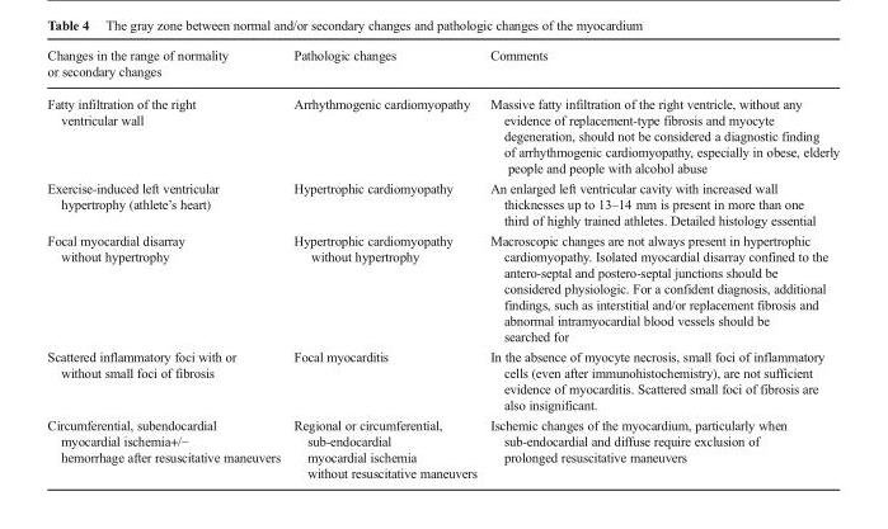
<table><thead><tr><td>Changes in the range of normality or secondary changes</td><td>Pathologic changes</td><td>Comments</td></tr></thead><tbody><tr><td>Fatty infiltration of the right ventricular wall</td><td>Arrhythmogenic cardiomyopathy</td><td>Massive fatty infiltration of the right ventricle, without any evidence of replacement-type fibrosis and myocyte degeneration, should not be considered a diagnostic finding of arrhythmogenic cardiomyopathy, especially in obese, elderly people and people with alcohol abuse</td></tr><tr><td>Exercise-induced left ventricular hypertrophy (athlete’s heart)</td><td>Hypertrophic cardiomyopathy</td><td>An enlarged left ventricular cavity with increased wall thicknesses up to 13–14 mm is present in more than one third of highly trained athletes. Detailed histology essential</td></tr><tr><td>Focal myocardial disarray without hypertrophy</td><td>Hypertrophic cardiomyopathy without hypertrophy</td><td>Macroscopic changes are not always present in hypertrophic cardiomyopathy. Isolated myocardial disarray confined to the antero-septal and postero-septal junctions should be considered physiologic. For a confident diagnosis, additional findings, such as interstitial and/or replacement fibrosis and abnormal intramyocardial blood vessels should be searched for</td></tr><tr><td>Scattered inflammatory foci with or without small foci of fibrosis</td><td>Focal myocarditis</td><td>In the absence of myocyte necrosis, small foci of inflammatory cells (even after immunohistochemistry), are not sufficient evidence of myocarditis. Scattered small foci of fibrosis are also insignificant.</td></tr><tr><td>Circumferential, subendocardial myocardial ischemia+/− hemorrhage after resuscitative maneuvers</td><td>Regional or circumferential, sub-endocardial myocardial ischemia without resuscitative maneuvers</td><td>Ischemic changes of the myocardium, particularly when sub-endocardial and diffuse require exclusion of prolonged resuscitative maneuvers</td></tr></tbody></table>